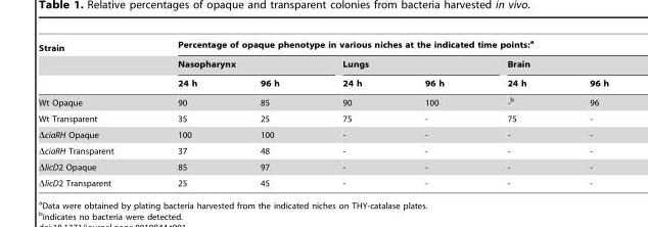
<table><thead><tr><td rowspan="3">Strain</td><td colspan="6">Percentage of opaque phenotype in various niches at the indicated time points:<sup>a</sup></td></tr><tr><td colspan="2">Nasopharynx</td><td colspan="2">Lungs</td><td colspan="2">Brain</td></tr><tr><td>24 h</td><td>96 h</td><td>24 h</td><td>96 h</td><td>24 h</td><td>96 h</td></tr></thead><tbody><tr><td>Wt Opaque</td><td>90</td><td>85</td><td>90</td><td>100</td><td>-b</td><td>96</td></tr><tr><td>Wt Transparent</td><td>35</td><td>25</td><td>75</td><td>-</td><td>75</td><td>-</td></tr><tr><td>ΔciaRH Opaque</td><td>100</td><td>100</td><td>-</td><td>-</td><td>-</td><td>-</td></tr><tr><td>ΔciaRH Transparent</td><td>37</td><td>48</td><td>-</td><td>-</td><td>-</td><td>-</td></tr><tr><td>ΔlicD2 Opaque</td><td>85</td><td>97</td><td>-</td><td>-</td><td>-</td><td>-</td></tr><tr><td>ΔlicD2 Transparent</td><td>25</td><td>45</td><td>-</td><td>-</td><td>-</td><td>-</td></tr></tbody></table>